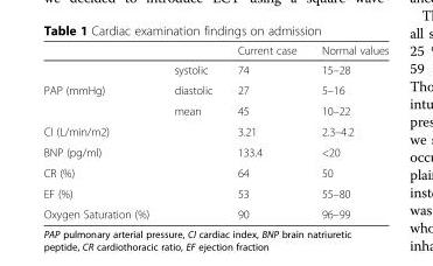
<table><thead><tr><td></td><td></td><td>Current case</td><td>Normal values</td></tr></thead><tbody><tr><td></td><td>systolic</td><td>74</td><td>15–28</td></tr><tr><td rowspan="2">PAP (mmHg)</td><td>diastolic</td><td>27</td><td>5–16</td></tr><tr><td>mean</td><td>45</td><td>10–22</td></tr><tr><td>CI (L/min/m2)</td><td></td><td>3.21</td><td>2.3–4.2</td></tr><tr><td>BNP (pg/ml)</td><td></td><td>133.4</td><td>&lt;20</td></tr><tr><td>CR (%)</td><td></td><td>64</td><td>50</td></tr><tr><td>EF (%)</td><td></td><td>53</td><td>55–80</td></tr><tr><td>Oxygen Saturation (%)</td><td></td><td>90</td><td>96–99</td></tr></tbody></table>